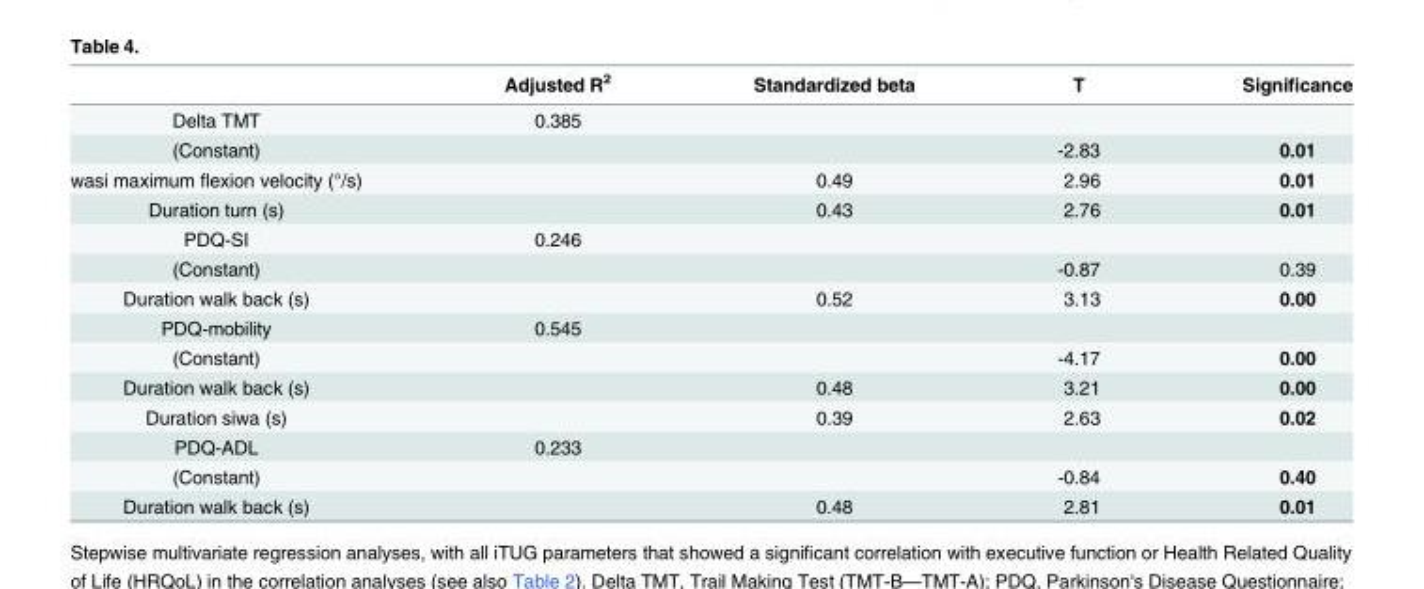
<table><thead><tr><td></td><td>Adjusted R<sup>2</sup></td><td>Standardized beta</td><td>T</td><td>Significance</td></tr></thead><tbody><tr><td>Delta TMT</td><td>0.385</td><td></td><td></td><td></td></tr><tr><td>(Constant)</td><td></td><td></td><td>-2.83</td><td>0.01</td></tr><tr><td>wasi maximum flexion velocity (°/s)</td><td></td><td>0.49</td><td>2.96</td><td>0.01</td></tr><tr><td>Duration turn (s)</td><td></td><td>0.43</td><td>2.76</td><td>0.01</td></tr><tr><td>PDQ-SI</td><td>0.246</td><td></td><td></td><td></td></tr><tr><td>(Constant)</td><td></td><td></td><td>-0.87</td><td>0.39</td></tr><tr><td>Duration walk back (s)</td><td></td><td>0.52</td><td>3.13</td><td>0.00</td></tr><tr><td>PDQ-mobility</td><td>0.545</td><td></td><td></td><td></td></tr><tr><td>(Constant)</td><td></td><td></td><td>-4.17</td><td>0.00</td></tr><tr><td>Duration walk back (s)</td><td></td><td>0.48</td><td>3.21</td><td>0.00</td></tr><tr><td>Duration siwa (s)</td><td></td><td>0.39</td><td>2.63</td><td>0.02</td></tr><tr><td>PDQ-ADL</td><td>0.233</td><td></td><td></td><td></td></tr><tr><td>(Constant)</td><td></td><td></td><td>-0.84</td><td>0.40</td></tr><tr><td>Duration walk back (s)</td><td></td><td>0.48</td><td>2.81</td><td>0.01</td></tr></tbody></table>